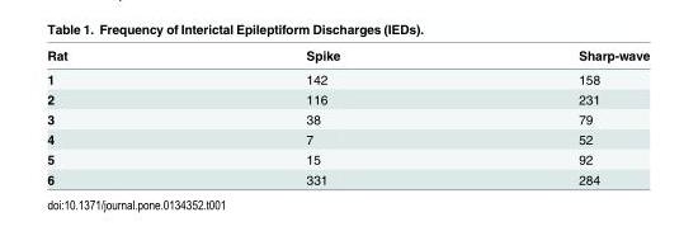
<table><thead><tr><td>Rat</td><td>Spike</td><td>Sharp-wave</td></tr></thead><tbody><tr><td>1</td><td>142</td><td>158</td></tr><tr><td>2</td><td>116</td><td>231</td></tr><tr><td>3</td><td>38</td><td>79</td></tr><tr><td>4</td><td>7</td><td>52</td></tr><tr><td>5</td><td>15</td><td>92</td></tr><tr><td>6</td><td>331</td><td>284</td></tr></tbody></table>